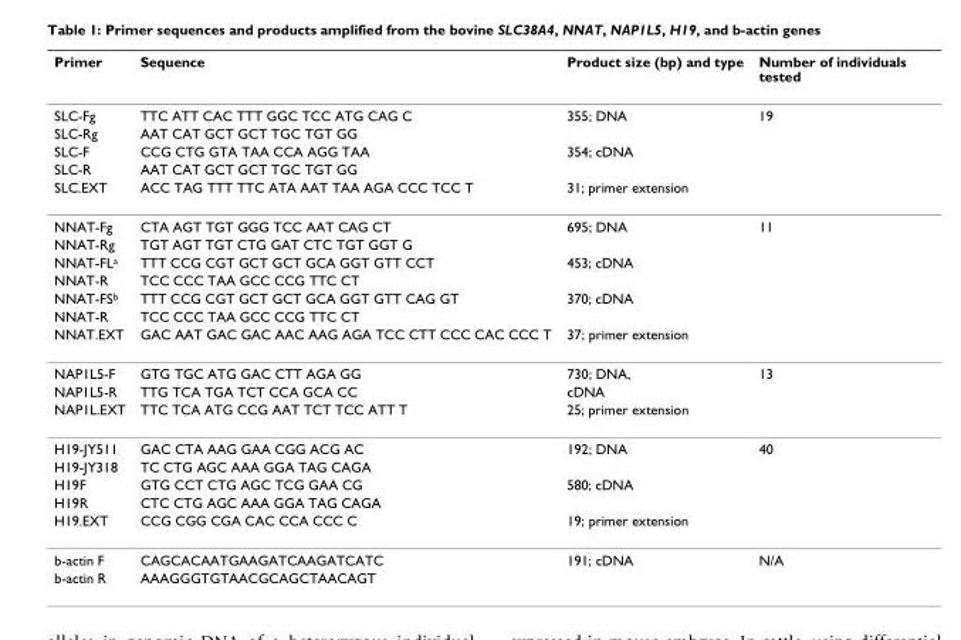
<table><thead><tr><td>Primer</td><td>Sequence</td><td>Product size (bp) and type</td><td>Number of individuals tested</td></tr></thead><tbody><tr><td>SLC-Fg</td><td>TTC ATT CAC TTT GGC TCC ATG CAG C</td><td>355; DNA</td><td>19</td></tr><tr><td>SLC-Rg</td><td>AAT CAT GCT GCT TGC TGT GG</td><td></td><td></td></tr><tr><td>SLC-F</td><td>CCG CTG GTA TAA CCA AGG TAA</td><td>354; cDNA</td><td></td></tr><tr><td>SLC-R</td><td>AAT CAT GCT GCT TGC TGT GG</td><td></td><td></td></tr><tr><td>SLC.EXT</td><td>ACC TAG TTT TTC ATA AAT TAA AGA CCC TCC T</td><td>31; primer extension</td><td></td></tr><tr><td>NNAT-Fg</td><td>CTA AGT TGT GGG TCC AAT CAG CT</td><td>695; DNA</td><td>11</td></tr><tr><td>NNAT-Rg</td><td>TGT AGT TGT CTG GAT CTC TGT GGT G</td><td></td><td></td></tr><tr><td>NNAT-FL<sup>a</sup></td><td>TTT CCG CGT GCT GCT GCA GGT GTT CCT</td><td>453; cDNA</td><td></td></tr><tr><td>NNAT-R</td><td>TCC CCC TAA GCC CCG TTC CT</td><td></td><td></td></tr><tr><td>NNAT-FS<sup>b</sup></td><td>TTT CCG CGT GCT GCT GCA GGT GTT CAG GT</td><td>370; cDNA</td><td></td></tr><tr><td>NNAT-R</td><td>TCC CCC TAA GCC CCG TTC CT</td><td></td><td></td></tr><tr><td>NNAT.EXT</td><td>GAC AAT GAC GAC AAC AAG AGA TCC CTT CCC CAC CCC T</td><td>37; primer extension</td><td></td></tr><tr><td>NAP1L5-F</td><td>GTG TGC ATG GAC CTT AGA GG</td><td>730; DNA,</td><td>13</td></tr><tr><td>NAP1L5-R</td><td>TTG TCA TGA TCT CCA GCA CC</td><td>cDNA</td><td></td></tr><tr><td>NAP1L.EXT</td><td>TTC TCA ATG CCG AAT TCT TCC ATT T</td><td>25; primer extension</td><td></td></tr><tr><td>H19-JY511</td><td>GAC CTA AAG GAA CGG ACG AC</td><td>192; DNA</td><td>40</td></tr><tr><td>H19-JY318</td><td>TC CTG AGC AAA GGA TAG CAGA</td><td></td><td></td></tr><tr><td>H19F</td><td>GTG CCT CTG AGC TCG GAA CG</td><td>580; cDNA</td><td></td></tr><tr><td>H19R</td><td>CTC CTG AGC AAA GGA TAG CAGA</td><td></td><td></td></tr><tr><td>H19.EXT</td><td>CCG CGG CGA CAC CCA CCC C</td><td>19; primer extension</td><td></td></tr><tr><td>b-actin F</td><td>CAGCACAATGAAGATCAAGATCATC</td><td>191; cDNA</td><td>N/A</td></tr><tr><td>b-actin R</td><td>AAAGGGTGTAACGCAGCTAACAGT</td><td></td><td></td></tr></tbody></table>